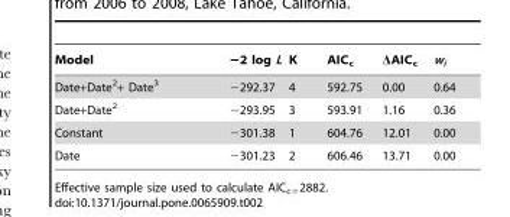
<table><thead><tr><td>Model</td><td>−2 log L</td><td>K</td><td>AIC<sub>c</sub></td><td>ΔAIC<sub>c</sub></td><td>w<sub>i</sub></td></tr></thead><tbody><tr><td>Date+Date<sup>2</sup>+ Date<sup>3</sup></td><td>−292.37</td><td>4</td><td>592.75</td><td>0.00</td><td>0.64</td></tr><tr><td>Date+Date<sup>2</sup></td><td>−293.95</td><td>3</td><td>593.91</td><td>1.16</td><td>0.36</td></tr><tr><td>Constant</td><td>−301.38</td><td>1</td><td>604.76</td><td>12.01</td><td>0.00</td></tr><tr><td>Date</td><td>−301.23</td><td>2</td><td>606.46</td><td>13.71</td><td>0.00</td></tr></tbody></table>